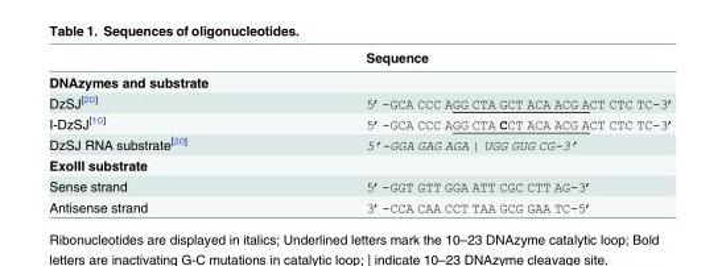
<table><thead><tr><td></td><td>Sequence</td></tr></thead><tbody><tr><td colspan="2">DNAzymes and substrate</td></tr><tr><td>DzSJ<sup>[20]</sup></td><td>5’-GCA CCC AGG CTA GCT ACA ACG ACT CTC TC-3’</td></tr><tr><td>I-DzSJ<sup>[10]</sup></td><td>5’-GCA CCC AGG CTA CCT ACA ACG ACT CTC TC-3’</td></tr><tr><td>DzSJ RNA substrate<sup>[20]</sup></td><td>5’-GGA GAG AGA | UGG GUG CG-3’</td></tr><tr><td colspan="2">ExoIII substrate</td></tr><tr><td>Sense strand</td><td>5’-GGT GTT GGA ATT CGC CTT AG-3’</td></tr><tr><td>Antisense strand</td><td>3’-CCA CAA CCT TAA GCG GAA TC-5’</td></tr></tbody></table>